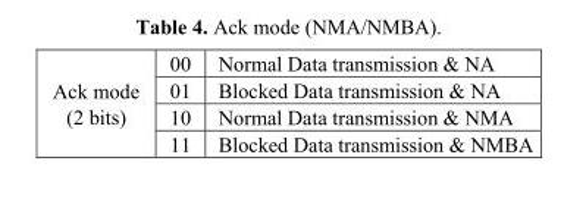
<table><tbody><tr><td rowspan="4">Ack mode (2 bits)</td><td>00</td><td>Normal Data transmission &amp; NA</td></tr><tr><td>01</td><td>Blocked Data transmission &amp; NA</td></tr><tr><td>10</td><td>Normal Data transmission &amp; NMA</td></tr><tr><td>11</td><td>Blocked Data transmission &amp; NMBA</td></tr></tbody></table>